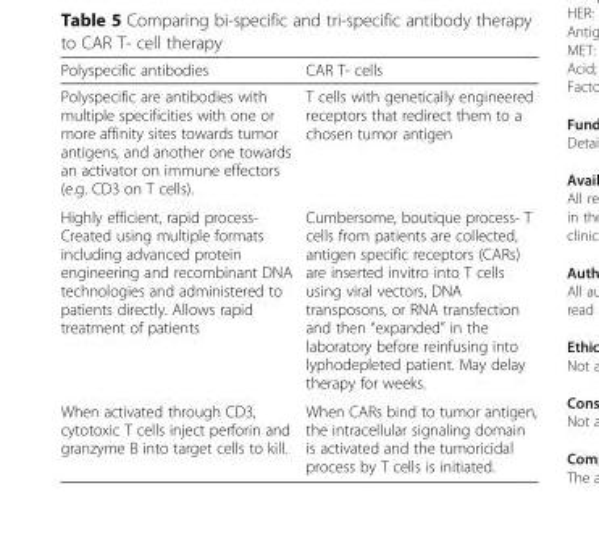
<table><thead><tr><td>Polyspecific antibodies</td><td>CAR T- cells</td></tr></thead><tbody><tr><td>Polyspecific are antibodies with multiple specificities with one or more affinity sites towards tumor antigens, and another one towards an activator on immune effectors (e.g. CD3 on T cells).</td><td>T cells with genetically engineered receptors that redirect them to a chosen tumor antigen</td></tr><tr><td>Highly efficient, rapid process- Created using multiple formats including advanced protein engineering and recombinant DNA technologies and administered to patients directly. Allows rapid treatment of patients</td><td>Cumbersome, boutique process- T cells from patients are collected, antigen specific receptors (CARs) are inserted invitro into T cells using viral vectors, DNA transposons, or RNA transfection and then “expanded” in the laboratory before reinfusing into lyphodepleted patient. May delay therapy for weeks.</td></tr><tr><td>When activated through CD3, cytotoxic T cells inject perforin and granzyme B into target cells to kill.</td><td>When CARs bind to tumor antigen, the intracellular signaling domain is activated and the tumoricidal process by T cells is initiated.</td></tr></tbody></table>